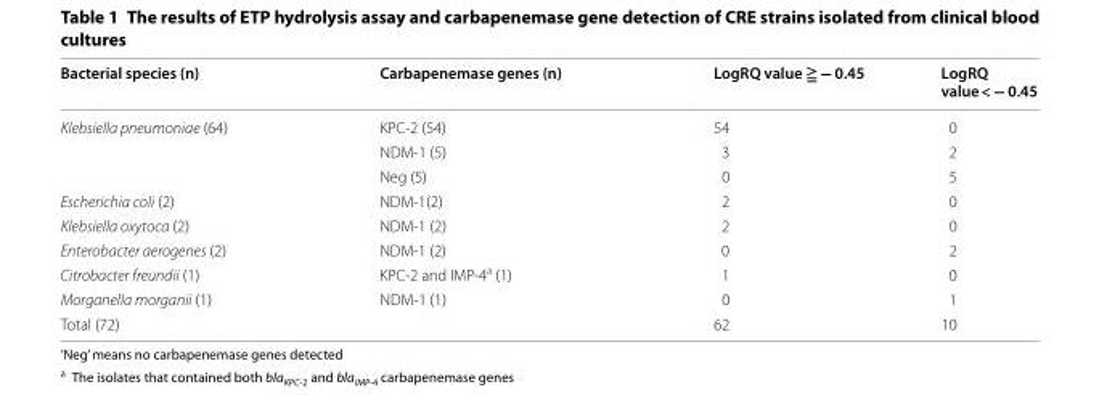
<table><thead><tr><td>Bacterial species (n)</td><td>Carbapenemase genes (n)</td><td>LogRQ value ≧ − 0.45</td><td>LogRQ value &lt; − 0.45</td></tr></thead><tbody><tr><td rowspan="3">Klebsiella pneumoniae (64)</td><td>KPC-2 (54)</td><td>54</td><td>0</td></tr><tr><td>NDM-1 (5)</td><td>3</td><td>2</td></tr><tr><td>Neg (5)</td><td>0</td><td>5</td></tr><tr><td>Escherichia coli (2)</td><td>NDM-1(2)</td><td>2</td><td>0</td></tr><tr><td>Klebsiella oxytoca (2)</td><td>NDM-1 (2)</td><td>2</td><td>0</td></tr><tr><td>Enterobacter aerogenes (2)</td><td>NDM-1 (2)</td><td>0</td><td>2</td></tr><tr><td>Citrobacter freundii (1)</td><td>KPC-2 and IMP-4<sup>a</sup> (1)</td><td>1</td><td>0</td></tr><tr><td>Morganella morganii (1)</td><td>NDM-1 (1)</td><td>0</td><td>1</td></tr><tr><td>Total (72)</td><td></td><td>62</td><td>10</td></tr></tbody></table>